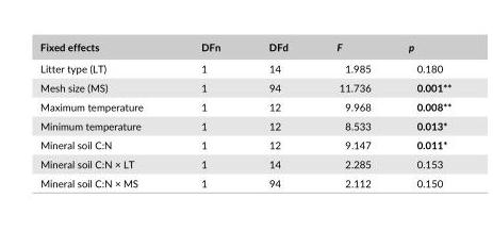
<table><thead><tr><td>Fixed effects</td><td>DFn</td><td>DFd</td><td>F</td><td>p</td></tr></thead><tbody><tr><td>Litter type (LT)</td><td>1</td><td>14</td><td>1.985</td><td>0.180</td></tr><tr><td>Mesh size (MS)</td><td>1</td><td>94</td><td>11.736</td><td>0.001**</td></tr><tr><td>Maximum temperature</td><td>1</td><td>12</td><td>9.968</td><td>0.008**</td></tr><tr><td>Minimum temperature</td><td>1</td><td>12</td><td>8.533</td><td>0.013*</td></tr><tr><td>Mineral soil C:N</td><td>1</td><td>12</td><td>9.147</td><td>0.011*</td></tr><tr><td>Mineral soil C:N × LT</td><td>1</td><td>14</td><td>2.285</td><td>0.153</td></tr><tr><td>Mineral soil C:N × MS</td><td>1</td><td>94</td><td>2.112</td><td>0.150</td></tr></tbody></table>